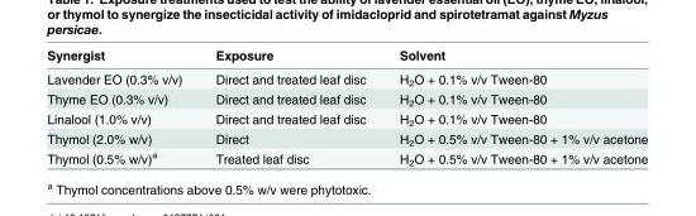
<table><thead><tr><td>Synergist</td><td>Exposure</td><td>Solvent</td></tr></thead><tbody><tr><td>Lavender EO (0.3% v/v)</td><td>Direct and treated leaf disc</td><td>H<sub>2</sub>O + 0.1% v/v Tween-80</td></tr><tr><td>Thyme EO (0.3% v/v)</td><td>Direct and treated leaf disc</td><td>H<sub>2</sub>O + 0.1% v/v Tween-80</td></tr><tr><td>Linalool (1.0% v/v)</td><td>Direct and treated leaf disc</td><td>H<sub>2</sub>O + 0.1% v/v Tween-80</td></tr><tr><td>Thymol (2.0% w/v)</td><td>Direct</td><td>H<sub>2</sub>O + 0.5% v/v Tween-80 + 1% v/v acetone</td></tr><tr><td>Thymol (0.5% w/v)<sup>a</sup></td><td>Treated leaf disc</td><td>H<sub>2</sub>O + 0.5% v/v Tween-80 + 1% v/v acetone</td></tr></tbody></table>